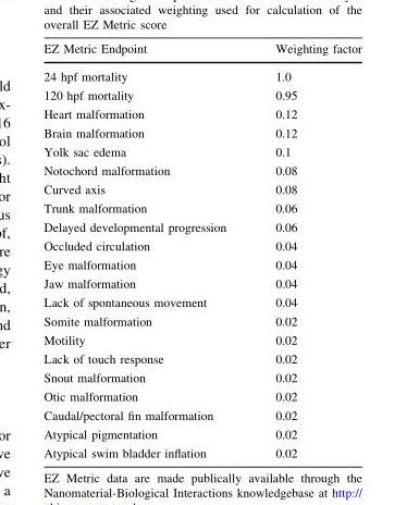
<table><thead><tr><td>EZ Metric Endpoint</td><td>Weighting factor</td></tr></thead><tbody><tr><td>24 hpf mortality</td><td>1.0</td></tr><tr><td>120 hpf mortality</td><td>0.95</td></tr><tr><td>Heart malformation</td><td>0.12</td></tr><tr><td>Brain malformation</td><td>0.12</td></tr><tr><td>Yolk sac edema</td><td>0.1</td></tr><tr><td>Notochord malformation</td><td>0.08</td></tr><tr><td>Curved axis</td><td>0.08</td></tr><tr><td>Trunk malformation</td><td>0.06</td></tr><tr><td>Delayed developmental progression</td><td>0.06</td></tr><tr><td>Occluded circulation</td><td>0.04</td></tr><tr><td>Eye malformation</td><td>0.04</td></tr><tr><td>Jaw malformation</td><td>0.04</td></tr><tr><td>Lack of spontaneous movement</td><td>0.04</td></tr><tr><td>Somite malformation</td><td>0.02</td></tr><tr><td>Motility</td><td>0.02</td></tr><tr><td>Lack of touch response</td><td>0.02</td></tr><tr><td>Snout malformation</td><td>0.02</td></tr><tr><td>Otic malformation</td><td>0.02</td></tr><tr><td>Caudal/pectoral fin malformation</td><td>0.02</td></tr><tr><td>Atypical pigmentation</td><td>0.02</td></tr><tr><td>Atypical swim bladder inflation</td><td>0.02</td></tr></tbody></table>